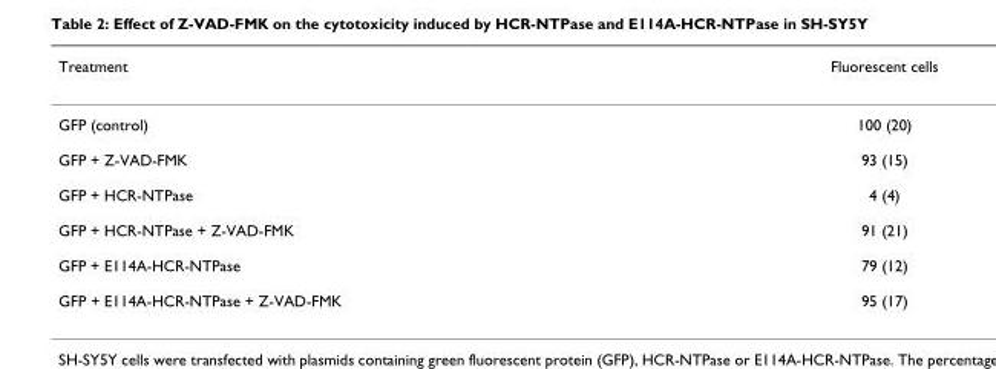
<table><thead><tr><td>Treatment</td><td>Fluorescent cells</td></tr></thead><tbody><tr><td>GFP (control)</td><td>100 (20)</td></tr><tr><td>GFP + Z-VAD-FMK</td><td>93 (15)</td></tr><tr><td>GFP + HCR-NTPase</td><td>4 (4)</td></tr><tr><td>GFP + HCR-NTPase + Z-VAD-FMK</td><td>91 (21)</td></tr><tr><td>GFP + E114A-HCR-NTPase</td><td>79 (12)</td></tr><tr><td>GFP + E114A-HCR-NTPase + Z-VAD-FMK</td><td>95 (17)</td></tr></tbody></table>